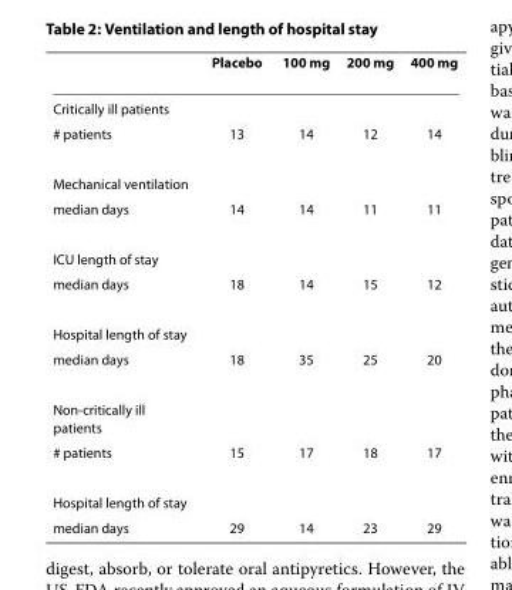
<table><thead><tr><td></td><td>Placebo</td><td>100 mg</td><td>200 mg</td><td>400 mg</td></tr></thead><tbody><tr><td colspan="5">Critically ill patients</td></tr><tr><td># patients</td><td>13</td><td>14</td><td>12</td><td>14</td></tr><tr><td colspan="5">Mechanical ventilation</td></tr><tr><td>median days</td><td>14</td><td>14</td><td>11</td><td>11</td></tr><tr><td colspan="5">ICU length of stay</td></tr><tr><td>median days</td><td>18</td><td>14</td><td>15</td><td>12</td></tr><tr><td colspan="5">Hospital length of stay</td></tr><tr><td>median days</td><td>18</td><td>35</td><td>25</td><td>20</td></tr><tr><td colspan="5">Non-critically ill patients</td></tr><tr><td># patients</td><td>15</td><td>17</td><td>18</td><td>17</td></tr><tr><td colspan="5">Hospital length of stay</td></tr><tr><td>median days</td><td>29</td><td>14</td><td>23</td><td>29</td></tr></tbody></table>